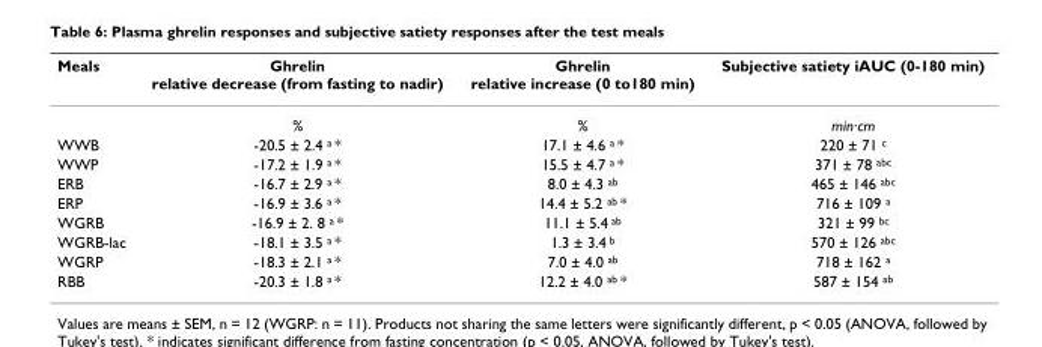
<table><thead><tr><td>Meals</td><td>Ghrelin relative decrease (from fasting to nadir)</td><td>Ghrelin relative increase (0 to180 min)</td><td>Subjective satiety iAUC (0-180 min)</td></tr></thead><tbody><tr><td></td><td>%</td><td>%</td><td>min·cm</td></tr><tr><td>WWB</td><td>-20.5 ± 2.4 <sup>a</sup> *</td><td>17.1 ± 4.6 <sup>a</sup> *</td><td>220 ± 71 <sup>c</sup></td></tr><tr><td>WWP</td><td>-17.2 ± 1.9 <sup>a</sup> *</td><td>15.5 ± 4.7 <sup>a</sup> *</td><td>371 ± 78 <sup>abc</sup></td></tr><tr><td>ERB</td><td>-16.7 ± 2.9 <sup>a</sup> *</td><td>8.0 ± 4.3 <sup>ab</sup></td><td>465 ± 146 <sup>abc</sup></td></tr><tr><td>ERP</td><td>-16.9 ± 3.6 <sup>a</sup> *</td><td>14.4 ± 5.2 <sup>ab</sup> *</td><td>716 ± 109 <sup>a</sup></td></tr><tr><td>WGRB</td><td>-16.9 ± 2. 8 <sup>a</sup> *</td><td>11.1 ± 5.4 <sup>ab</sup></td><td>321 ± 99 <sup>bc</sup></td></tr><tr><td>WGRB-lac</td><td>-18.1 ± 3.5 <sup>a</sup> *</td><td>1.3 ± 3.4 <sup>b</sup></td><td>570 ± 126 <sup>abc</sup></td></tr><tr><td>WGRP</td><td>-18.3 ± 2.1 <sup>a</sup> *</td><td>7.0 ± 4.0 <sup>ab</sup></td><td>718 ± 162 <sup>a</sup></td></tr><tr><td>RBB</td><td>-20.3 ± 1.8 <sup>a</sup> *</td><td>12.2 ± 4.0 <sup>ab</sup> *</td><td>587 ± 154 <sup>ab</sup></td></tr></tbody></table>